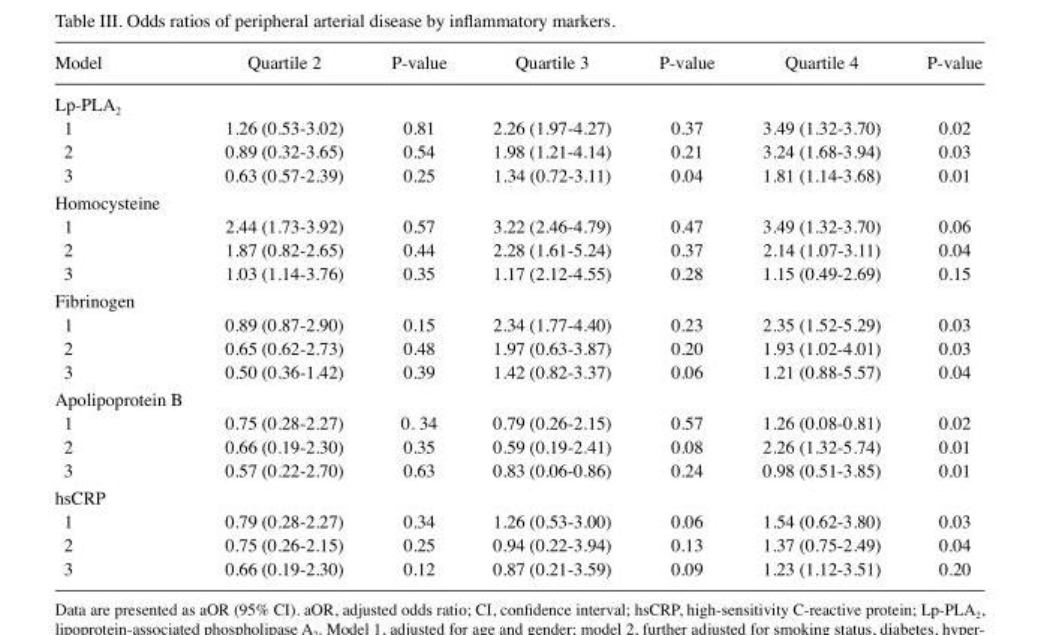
<table><thead><tr><td>Model</td><td>Quartile 2</td><td>P-value</td><td>Quartile 3</td><td>P-value</td><td>Quartile 4</td><td>P-value</td></tr></thead><tbody><tr><td colspan="7">Lp-PLA<sub>2</sub></td></tr><tr><td>1</td><td>1.26 (0.53-3.02)</td><td>0.81</td><td>2.26 (1.97-4.27)</td><td>0.37</td><td>3.49 (1.32-3.70)</td><td>0.02</td></tr><tr><td>2</td><td>0.89 (0.32-3.65)</td><td>0.54</td><td>1.98 (1.21-4.14)</td><td>0.21</td><td>3.24 (1.68-3.94)</td><td>0.03</td></tr><tr><td>3</td><td>0.63 (0.57-2.39)</td><td>0.25</td><td>1.34 (0.72-3.11)</td><td>0.04</td><td>1.81 (1.14-3.68)</td><td>0.01</td></tr><tr><td colspan="7">Homocysteine</td></tr><tr><td>1</td><td>2.44 (1.73-3.92)</td><td>0.57</td><td>3.22 (2.46-4.79)</td><td>0.47</td><td>3.49 (1.32-3.70)</td><td>0.06</td></tr><tr><td>2</td><td>1.87 (0.82-2.65)</td><td>0.44</td><td>2.28 (1.61-5.24)</td><td>0.37</td><td>2.14 (1.07-3.11)</td><td>0.04</td></tr><tr><td>3</td><td>1.03 (1.14-3.76)</td><td>0.35</td><td>1.17 (2.12-4.55)</td><td>0.28</td><td>1.15 (0.49-2.69)</td><td>0.15</td></tr><tr><td colspan="7">Fibrinogen</td></tr><tr><td>1</td><td>0.89 (0.87-2.90)</td><td>0.15</td><td>2.34 (1.77-4.40)</td><td>0.23</td><td>2.35 (1.52-5.29)</td><td>0.03</td></tr><tr><td>2</td><td>0.65 (0.62-2.73)</td><td>0.48</td><td>1.97 (0.63-3.87)</td><td>0.20</td><td>1.93 (1.02-4.01)</td><td>0.03</td></tr><tr><td>3</td><td>0.50 (0.36-1.42)</td><td>0.39</td><td>1.42 (0.82-3.37)</td><td>0.06</td><td>1.21 (0.88-5.57)</td><td>0.04</td></tr><tr><td colspan="7">Apolipoprotein B</td></tr><tr><td>1</td><td>0.75 (0.28-2.27)</td><td>0. 34</td><td>0.79 (0.26-2.15)</td><td>0.57</td><td>1.26 (0.08-0.81)</td><td>0.02</td></tr><tr><td>2</td><td>0.66 (0.19-2.30)</td><td>0.35</td><td>0.59 (0.19-2.41)</td><td>0.08</td><td>2.26 (1.32-5.74)</td><td>0.01</td></tr><tr><td>3</td><td>0.57 (0.22-2.70)</td><td>0.63</td><td>0.83 (0.06-0.86)</td><td>0.24</td><td>0.98 (0.51-3.85)</td><td>0.01</td></tr><tr><td colspan="7">hsCRP</td></tr><tr><td>1</td><td>0.79 (0.28-2.27)</td><td>0.34</td><td>1.26 (0.53-3.00)</td><td>0.06</td><td>1.54 (0.62-3.80)</td><td>0.03</td></tr><tr><td>2</td><td>0.75 (0.26-2.15)</td><td>0.25</td><td>0.94 (0.22-3.94)</td><td>0.13</td><td>1.37 (0.75-2.49)</td><td>0.04</td></tr><tr><td>3</td><td>0.66 (0.19-2.30)</td><td>0.12</td><td>0.87 (0.21-3.59)</td><td>0.09</td><td>1.23 (1.12-3.51)</td><td>0.20</td></tr></tbody></table>